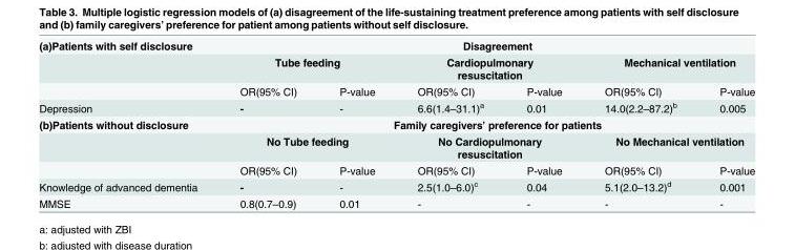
<table><tbody><tr><td rowspan="3">(a)Patients with self disclosure</td><td colspan="6">Disagreement</td></tr><tr><td colspan="2">Tube feeding</td><td colspan="2">Cardiopulmonary resuscitation</td><td colspan="2">Mechanical ventilation</td></tr><tr><td>OR(95% CI)</td><td>P-value</td><td>OR(95% CI)</td><td>P-value</td><td>OR(95% CI)</td><td>P-value</td></tr><tr><td>Depression</td><td>-</td><td>-</td><td>6.6(1.4–31.1)<sup>a</sup></td><td>0.01</td><td>14.0(2.2–87.2)<sup>b</sup></td><td>0.005</td></tr><tr><td rowspan="3">(b)Patients without disclosure</td><td colspan="6">Family caregivers’ preference for patients</td></tr><tr><td colspan="2">No Tube feeding</td><td colspan="2">No Cardiopulmonary resuscitation</td><td colspan="2">No Mechanical ventilation</td></tr><tr><td>OR(95% CI)</td><td>P-value</td><td>OR(95% CI)</td><td>P-value</td><td>OR(95% CI)</td><td>P-value</td></tr><tr><td>Knowledge of advanced dementia</td><td>-</td><td>-</td><td>2.5(1.0–6.0)<sup>c</sup></td><td>0.04</td><td>5.1(2.0–13.2)<sup>d</sup></td><td>0.001</td></tr><tr><td>MMSE</td><td>0.8(0.7–0.9)</td><td>0.01</td><td>-</td><td>-</td><td>-</td><td>-</td></tr></tbody></table>